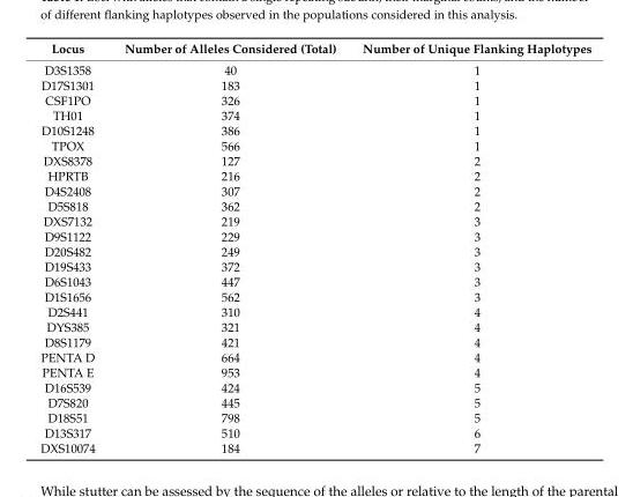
<table><thead><tr><td>Locus</td><td>Number of Alleles Considered (Total)</td><td>Number of Unique Flanking Haplotypes</td></tr></thead><tbody><tr><td>D3S1358</td><td>40</td><td>1</td></tr><tr><td>D17S1301</td><td>183</td><td>1</td></tr><tr><td>CSF1PO</td><td>326</td><td>1</td></tr><tr><td>TH01</td><td>374</td><td>1</td></tr><tr><td>D10S1248</td><td>386</td><td>1</td></tr><tr><td>TPOX</td><td>566</td><td>1</td></tr><tr><td>DXS8378</td><td>127</td><td>2</td></tr><tr><td>HPRTB</td><td>216</td><td>2</td></tr><tr><td>D4S2408</td><td>307</td><td>2</td></tr><tr><td>D5S818</td><td>362</td><td>2</td></tr><tr><td>DXS7132</td><td>219</td><td>3</td></tr><tr><td>D9S1122</td><td>229</td><td>3</td></tr><tr><td>D20S482</td><td>249</td><td>3</td></tr><tr><td>D19S433</td><td>372</td><td>3</td></tr><tr><td>D6S1043</td><td>447</td><td>3</td></tr><tr><td>D1S1656</td><td>562</td><td>3</td></tr><tr><td>D2S441</td><td>310</td><td>4</td></tr><tr><td>DYS385</td><td>321</td><td>4</td></tr><tr><td>D8S1179</td><td>421</td><td>4</td></tr><tr><td>PENTA D</td><td>664</td><td>4</td></tr><tr><td>PENTA E</td><td>953</td><td>4</td></tr><tr><td>D16S539</td><td>424</td><td>5</td></tr><tr><td>D7S820</td><td>445</td><td>5</td></tr><tr><td>D18S51</td><td>798</td><td>5</td></tr><tr><td>D13S317</td><td>510</td><td>6</td></tr><tr><td>DXS10074</td><td>184</td><td>7</td></tr></tbody></table>